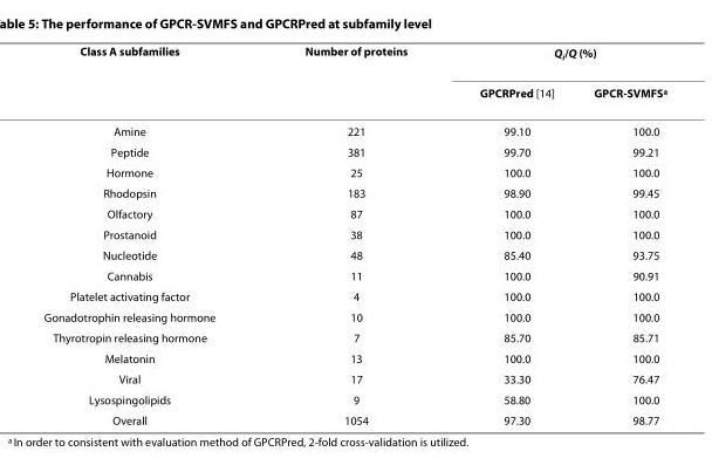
<table><thead><tr><td rowspan="2">Class A subfamilies</td><td rowspan="2">Number of proteins</td><td colspan="2">Q<sub>i</sub>/Q (%)</td></tr><tr><td>GPCRPred [14]</td><td>GPCR-SVMFS<sup>a</sup></td></tr></thead><tbody><tr><td>Amine</td><td>221</td><td>99.10</td><td>100.0</td></tr><tr><td>Peptide</td><td>381</td><td>99.70</td><td>99.21</td></tr><tr><td>Hormone</td><td>25</td><td>100.0</td><td>100.0</td></tr><tr><td>Rhodopsin</td><td>183</td><td>98.90</td><td>99.45</td></tr><tr><td>Olfactory</td><td>87</td><td>100.0</td><td>100.0</td></tr><tr><td>Prostanoid</td><td>38</td><td>100.0</td><td>100.0</td></tr><tr><td>Nucleotide</td><td>48</td><td>85.40</td><td>93.75</td></tr><tr><td>Cannabis</td><td>11</td><td>100.0</td><td>90.91</td></tr><tr><td>Platelet activating factor</td><td>4</td><td>100.0</td><td>100.0</td></tr><tr><td>Gonadotrophin releasing hormone</td><td>10</td><td>100.0</td><td>100.0</td></tr><tr><td>Thyrotropin releasing hormone</td><td>7</td><td>85.70</td><td>85.71</td></tr><tr><td>Melatonin</td><td>13</td><td>100.0</td><td>100.0</td></tr><tr><td>Viral</td><td>17</td><td>33.30</td><td>76.47</td></tr><tr><td>Lysospingolipids</td><td>9</td><td>58.80</td><td>100.0</td></tr><tr><td>Overall</td><td>1054</td><td>97.30</td><td>98.77</td></tr></tbody></table>